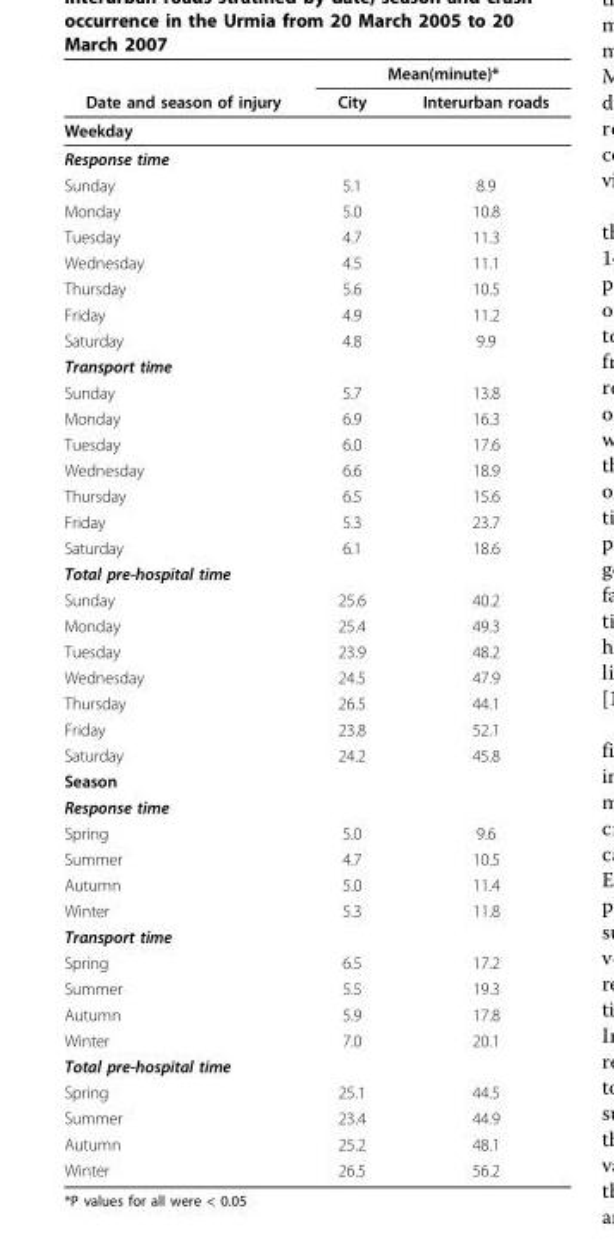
<table><thead><tr><td rowspan="2">Date and season of injury</td><td colspan="2">Mean(minute)*</td></tr><tr><td>City</td><td>Interurban roads</td></tr></thead><tbody><tr><td colspan="3">Weekday</td></tr><tr><td colspan="3">Response time</td></tr><tr><td>Sunday</td><td>5.1</td><td>8.9</td></tr><tr><td>Monday</td><td>5.0</td><td>10.8</td></tr><tr><td>Tuesday</td><td>4.7</td><td>11.3</td></tr><tr><td>Wednesday</td><td>4.5</td><td>11.1</td></tr><tr><td>Thursday</td><td>5.6</td><td>10.5</td></tr><tr><td>Friday</td><td>4.9</td><td>11.2</td></tr><tr><td>Saturday</td><td>4.8</td><td>9.9</td></tr><tr><td colspan="3">Transport time</td></tr><tr><td>Sunday</td><td>5.7</td><td>13.8</td></tr><tr><td>Monday</td><td>6.9</td><td>16.3</td></tr><tr><td>Tuesday</td><td>6.0</td><td>17.6</td></tr><tr><td>Wednesday</td><td>6.6</td><td>18.9</td></tr><tr><td>Thursday</td><td>6.5</td><td>15.6</td></tr><tr><td>Friday</td><td>5.3</td><td>23.7</td></tr><tr><td>Saturday</td><td>6.1</td><td>18.6</td></tr><tr><td colspan="3">Total pre-hospital time</td></tr><tr><td>Sunday</td><td>25.6</td><td>40.2</td></tr><tr><td>Monday</td><td>25.4</td><td>49.3</td></tr><tr><td>Tuesday</td><td>23.9</td><td>48.2</td></tr><tr><td>Wednesday</td><td>24.5</td><td>47.9</td></tr><tr><td>Thursday</td><td>26.5</td><td>44.1</td></tr><tr><td>Friday</td><td>23.8</td><td>52.1</td></tr><tr><td>Saturday</td><td>24.2</td><td>45.8</td></tr><tr><td colspan="3">Season</td></tr><tr><td colspan="3">Response time</td></tr><tr><td>Spring</td><td>5.0</td><td>9.6</td></tr><tr><td>Summer</td><td>4.7</td><td>10.5</td></tr><tr><td>Autumn</td><td>5.0</td><td>11.4</td></tr><tr><td>Winter</td><td>5.3</td><td>11.8</td></tr><tr><td colspan="3">Transport time</td></tr><tr><td>Spring</td><td>6.5</td><td>17.2</td></tr><tr><td>Summer</td><td>5.5</td><td>19.3</td></tr><tr><td>Autumn</td><td>5.9</td><td>17.8</td></tr><tr><td>Winter</td><td>7.0</td><td>20.1</td></tr><tr><td colspan="3">Total pre-hospital time</td></tr><tr><td>Spring</td><td>25.1</td><td>44.5</td></tr><tr><td>Summer</td><td>23.4</td><td>44.9</td></tr><tr><td>Autumn</td><td>25.2</td><td>48.1</td></tr><tr><td>Winter</td><td>26.5</td><td>56.2</td></tr></tbody></table>